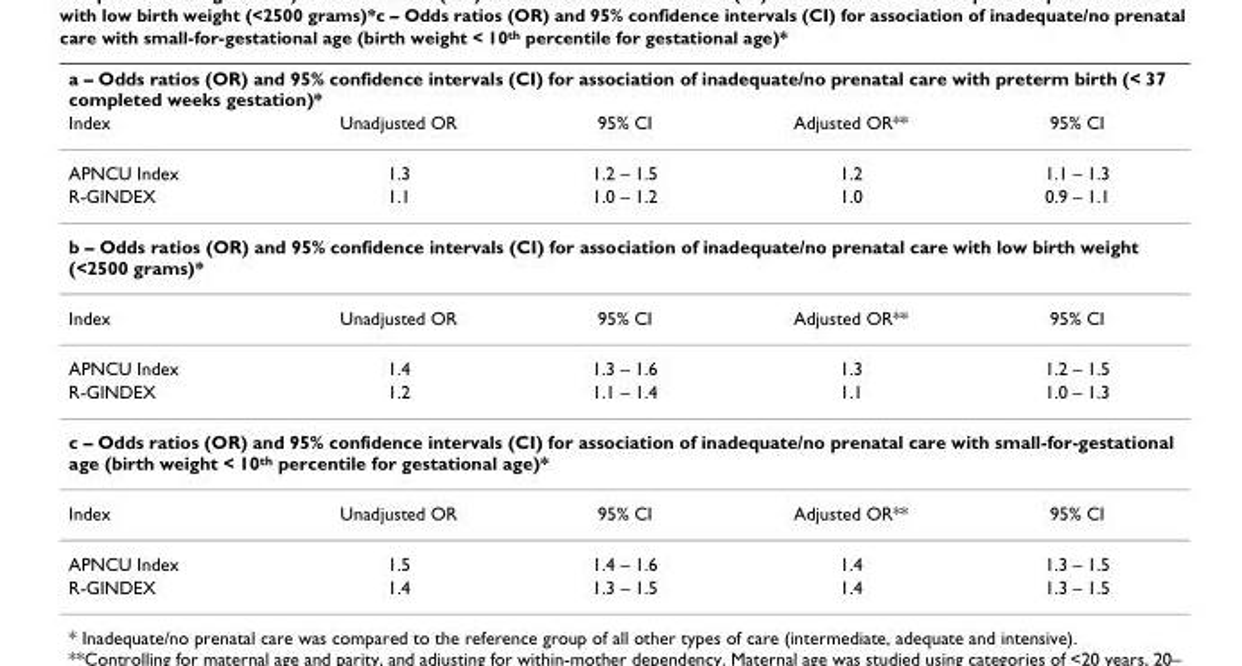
<table><thead><tr><td colspan="5">a – Odds ratios (OR) and 95% confidence intervals (CI) for association of inadequate/no prenatal care with preterm birth (&lt; 37 completed weeks gestation)*</td></tr><tr><td>Index</td><td>Unadjusted OR</td><td>95% CI</td><td>Adjusted OR**</td><td>95% CI</td></tr></thead><tbody><tr><td>APNCU Index</td><td>1.3</td><td>1.2 – 1.5</td><td>1.2</td><td>1.1 – 1.3</td></tr><tr><td>R-GINDEX</td><td>1.1</td><td>1.0 – 1.2</td><td>1.0</td><td>0.9 – 1.1</td></tr><tr><td colspan="5">b – Odds ratios (OR) and 95% confidence intervals (CI) for association of inadequate/no prenatal care with low birth weight (&lt;2500 grams)*</td></tr><tr><td>Index</td><td>Unadjusted OR</td><td>95% CI</td><td>Adjusted OR**</td><td>95% CI</td></tr><tr><td>APNCU Index</td><td>1.4</td><td>1.3 – 1.6</td><td>1.3</td><td>1.2 – 1.5</td></tr><tr><td>R-GINDEX</td><td>1.2</td><td>1.1 – 1.4</td><td>1.1</td><td>1.0 – 1.3</td></tr><tr><td colspan="5">c – Odds ratios (OR) and 95% confidence intervals (CI) for association of inadequate/no prenatal care with small-for-gestational age (birth weight &lt; 10<sup>th</sup> percentile for gestational age)*</td></tr><tr><td>Index</td><td>Unadjusted OR</td><td>95% CI</td><td>Adjusted OR**</td><td>95% CI</td></tr><tr><td>APNCU Index</td><td>1.5</td><td>1.4 – 1.6</td><td>1.4</td><td>1.3 – 1.5</td></tr><tr><td>R-GINDEX</td><td>1.4</td><td>1.3 – 1.5</td><td>1.4</td><td>1.3 – 1.5</td></tr></tbody></table>